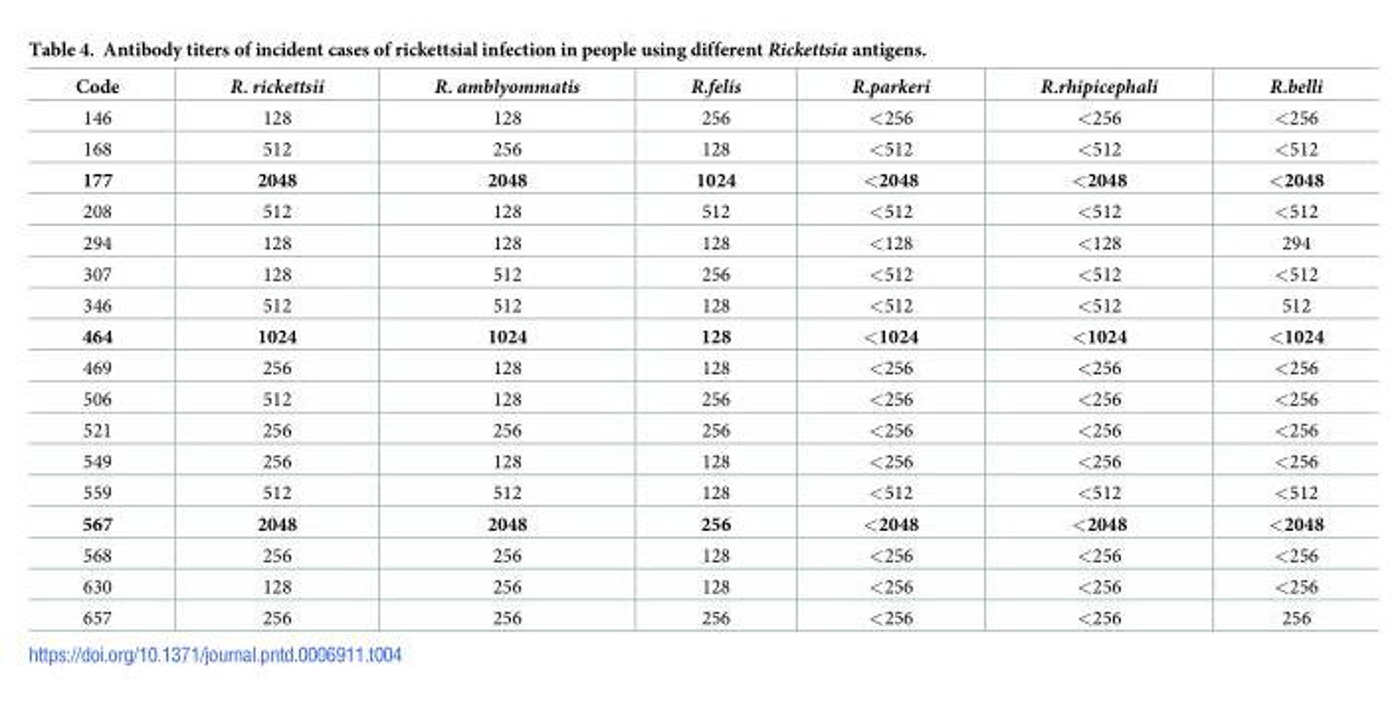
<table><thead><tr><td>Code</td><td>R. rickettsii</td><td>R. amblyommatis</td><td>R.felis</td><td>R.parkeri</td><td>R.rhipicephali</td><td>R.belli</td></tr></thead><tbody><tr><td>146</td><td>128</td><td>128</td><td>256</td><td>&lt;256</td><td>&lt;256</td><td>&lt;256</td></tr><tr><td>168</td><td>512</td><td>256</td><td>128</td><td>&lt;512</td><td>&lt;512</td><td>&lt;512</td></tr><tr><td>177</td><td>2048</td><td>2048</td><td>1024</td><td>&lt;2048</td><td>&lt;2048</td><td>&lt;2048</td></tr><tr><td>208</td><td>512</td><td>128</td><td>512</td><td>&lt;512</td><td>&lt;512</td><td>&lt;512</td></tr><tr><td>294</td><td>128</td><td>128</td><td>128</td><td>&lt;128</td><td>&lt;128</td><td>294</td></tr><tr><td>307</td><td>128</td><td>512</td><td>256</td><td>&lt;512</td><td>&lt;512</td><td>&lt;512</td></tr><tr><td>346</td><td>512</td><td>512</td><td>128</td><td>&lt;512</td><td>&lt;512</td><td>512</td></tr><tr><td>464</td><td>1024</td><td>1024</td><td>128</td><td>&lt;1024</td><td>&lt;1024</td><td>&lt;1024</td></tr><tr><td>469</td><td>256</td><td>128</td><td>128</td><td>&lt;256</td><td>&lt;256</td><td>&lt;256</td></tr><tr><td>506</td><td>512</td><td>128</td><td>256</td><td>&lt;256</td><td>&lt;256</td><td>&lt;256</td></tr><tr><td>521</td><td>256</td><td>256</td><td>256</td><td>&lt;256</td><td>&lt;256</td><td>&lt;256</td></tr><tr><td>549</td><td>256</td><td>128</td><td>128</td><td>&lt;256</td><td>&lt;256</td><td>&lt;256</td></tr><tr><td>559</td><td>512</td><td>512</td><td>128</td><td>&lt;512</td><td>&lt;512</td><td>&lt;512</td></tr><tr><td>567</td><td>2048</td><td>2048</td><td>256</td><td>&lt;2048</td><td>&lt;2048</td><td>&lt;2048</td></tr><tr><td>568</td><td>256</td><td>256</td><td>128</td><td>&lt;256</td><td>&lt;256</td><td>&lt;256</td></tr><tr><td>630</td><td>128</td><td>256</td><td>128</td><td>&lt;256</td><td>&lt;256</td><td>&lt;256</td></tr><tr><td>657</td><td>256</td><td>256</td><td>256</td><td>&lt;256</td><td>&lt;256</td><td>256</td></tr></tbody></table>